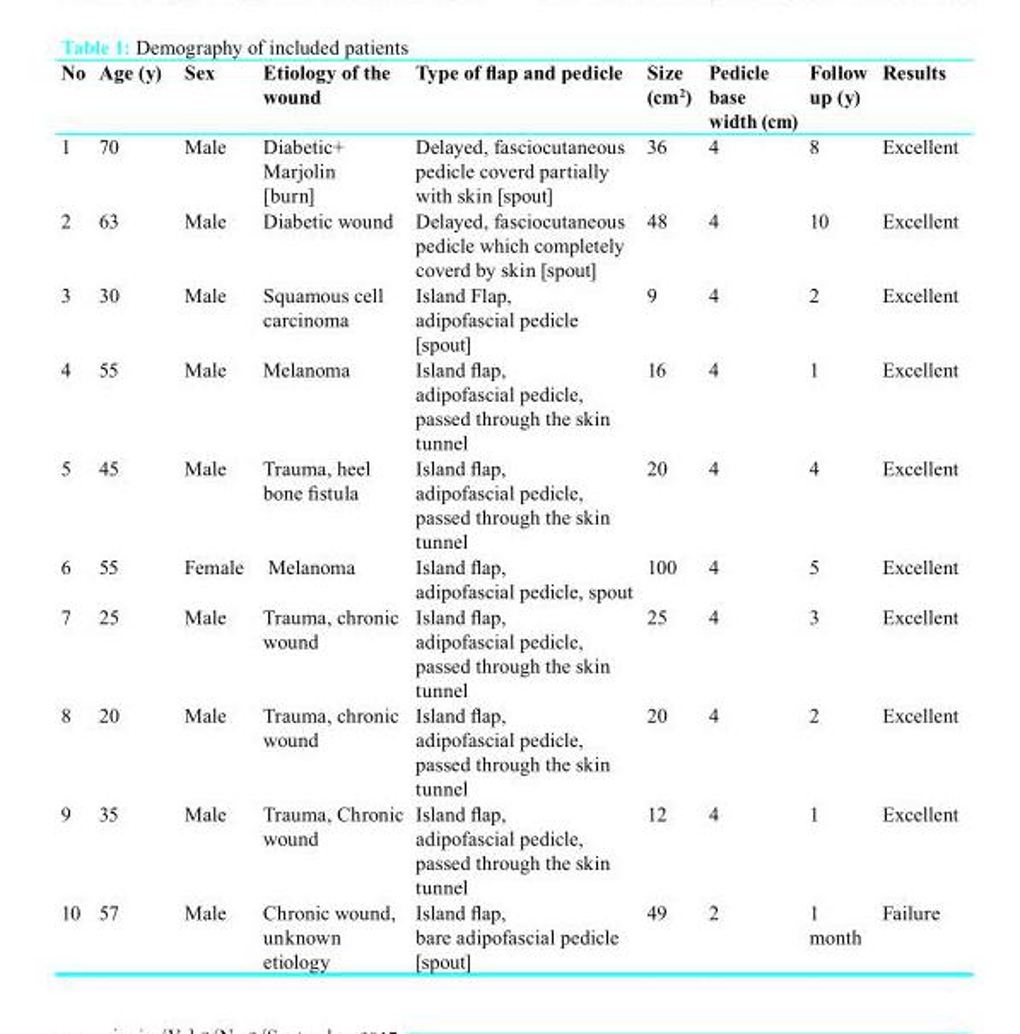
<table><thead><tr><td>No</td><td>Age (y)</td><td>Sex</td><td>Etiology of the wound</td><td>Type of flap and pedicle</td><td>Size (cm<sup>2</sup>)</td><td>Pedicle base width (cm)</td><td>Follow up (y)</td><td>Results</td></tr></thead><tbody><tr><td>1</td><td>70</td><td>Male</td><td>Diabetic+ Marjolin [burn]</td><td>Delayed, fasciocutaneous pedicle coverd partially with skin [spout]</td><td>36</td><td>4</td><td>8</td><td>Excellent</td></tr><tr><td>2</td><td>63</td><td>Male</td><td>Diabetic wound</td><td>Delayed, fasciocutaneous pedicle which completely coverd by skin [spout]</td><td>48</td><td>4</td><td>10</td><td>Excellent</td></tr><tr><td>3</td><td>30</td><td>Male</td><td>Squamous cell carcinoma</td><td>Island Flap, adipofascial pedicle [spout]</td><td>9</td><td>4</td><td>2</td><td>Excellent</td></tr><tr><td>4</td><td>55</td><td>Male</td><td>Melanoma</td><td>Island flap, adipofascial pedicle, passed through the skin tunnel</td><td>16</td><td>4</td><td>1</td><td>Excellent</td></tr><tr><td>5</td><td>45</td><td>Male</td><td>Trauma, heel bone fistula</td><td>Island flap, adipofascial pedicle, passed through the skin tunnel</td><td>20</td><td>4</td><td>4</td><td>Excellent</td></tr><tr><td>6</td><td>55</td><td>Female</td><td>Melanoma</td><td>Island flap, adipofascial pedicle, spout</td><td>100</td><td>4</td><td>5</td><td>Excellent</td></tr><tr><td>7</td><td>25</td><td>Male</td><td>Trauma, chronic wound</td><td>Island flap, adipofascial pedicle, passed through the skin tunnel</td><td>25</td><td>4</td><td>3</td><td>Excellent</td></tr><tr><td>8</td><td>20</td><td>Male</td><td>Trauma, chronic wound</td><td>Island flap, adipofascial pedicle, passed through the skin tunnel</td><td>20</td><td>4</td><td>2</td><td>Excellent</td></tr><tr><td>9</td><td>35</td><td>Male</td><td>Trauma, Chronic wound</td><td>Island flap, adipofascial pedicle, passed through the skin tunnel</td><td>12</td><td>4</td><td>1</td><td>Excellent</td></tr><tr><td>10</td><td>57</td><td>Male</td><td>Chronic wound, unknown etiology</td><td>Island flap, bare adipofascial pedicle [spout]</td><td>49</td><td>2</td><td>1 month</td><td>Failure</td></tr></tbody></table>